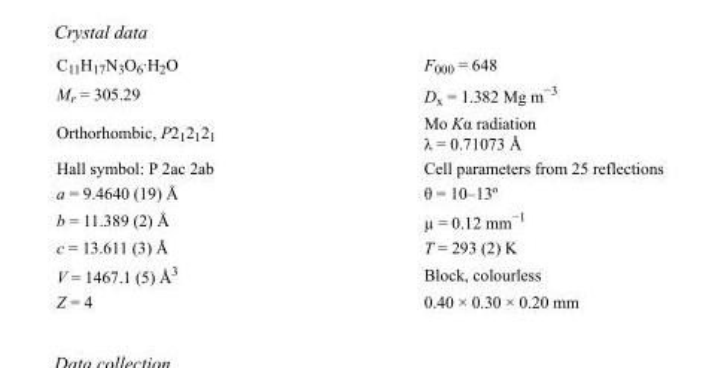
<table><tbody><tr><td>C<sub>11</sub>H<sub>17</sub>N<sub>3</sub>O<sub>6</sub>·H<sub>2</sub>O</td><td>F<sub>000</sub> = 648</td></tr><tr><td>M<sub>r</sub> = 305.29</td><td>D<sub>x</sub> = 1.382 Mg m<sup>−3</sup></td></tr><tr><td>Orthorhombic, P2<sub>1</sub>2<sub>1</sub>2<sub>1</sub></td><td>Mo Kα radiation λ = 0.71073 Å</td></tr><tr><td>Hall symbol: P 2ac 2ab</td><td>Cell parameters from 25 reflections</td></tr><tr><td>a = 9.4640 (19) Å</td><td>θ = 10–13º</td></tr><tr><td>b = 11.389 (2) Å</td><td>µ = 0.12 mm<sup>−1</sup></td></tr><tr><td>c = 13.611 (3) Å</td><td>T = 293 (2) K</td></tr><tr><td>V = 1467.1 (5) Å<sup>3</sup></td><td>Block, colourless</td></tr><tr><td>Z = 4</td><td>0.40 × 0.30 × 0.20 mm</td></tr></tbody></table>